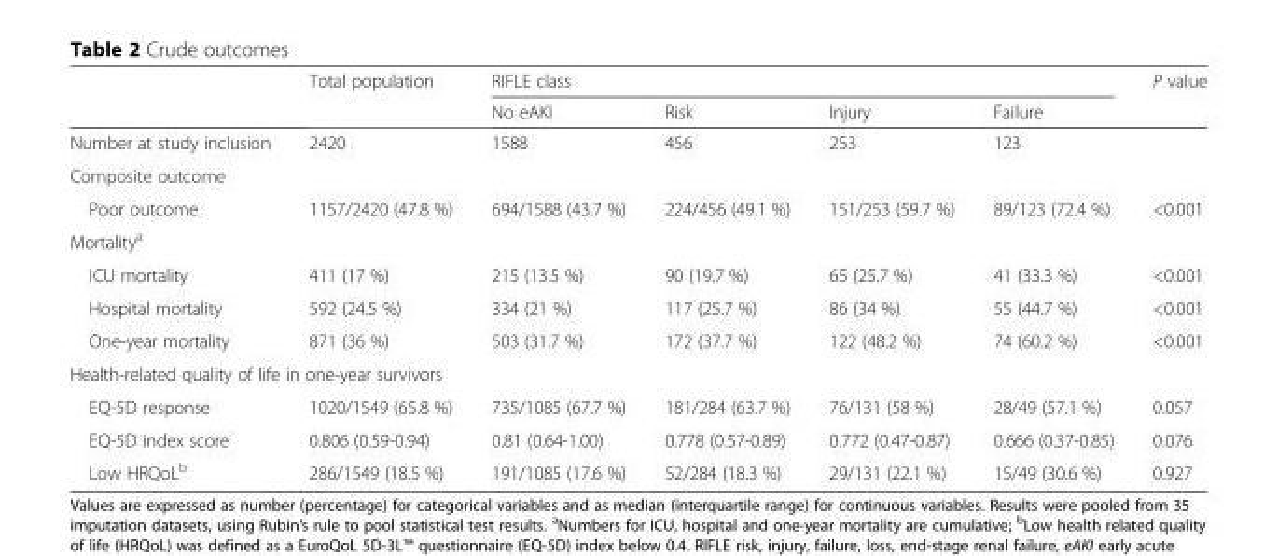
<table><thead><tr><td rowspan="2"></td><td rowspan="2">Total population</td><td colspan="4">RIFLE class</td><td rowspan="2">P value</td></tr><tr><td>No eAKI</td><td>Risk</td><td>Injury</td><td>Failure</td></tr></thead><tbody><tr><td>Number at study inclusion</td><td>2420</td><td>1588</td><td>456</td><td>253</td><td>123</td><td></td></tr><tr><td colspan="7">Composite outcome</td></tr><tr><td>Poor outcome</td><td>1157/2420 (47.8 %)</td><td>694/1588 (43.7 %)</td><td>224/456 (49.1 %)</td><td>151/253 (59.7 %)</td><td>89/123 (72.4 %)</td><td>&lt;0.001</td></tr><tr><td colspan="7">Mortality<sup>a</sup></td></tr><tr><td>ICU mortality</td><td>411 (17 %)</td><td>215 (13.5 %)</td><td>90 (19.7 %)</td><td>65 (25.7 %)</td><td>41 (33.3 %)</td><td>&lt;0.001</td></tr><tr><td>Hospital mortality</td><td>592 (24.5 %)</td><td>334 (21 %)</td><td>117 (25.7 %)</td><td>86 (34 %)</td><td>55 (44.7 %)</td><td>&lt;0.001</td></tr><tr><td>One-year mortality</td><td>871 (36 %)</td><td>503 (31.7 %)</td><td>172 (37.7 %)</td><td>122 (48.2 %)</td><td>74 (60.2 %)</td><td>&lt;0.001</td></tr><tr><td colspan="7">Health-related quality of life in one-year survivors</td></tr><tr><td>EQ-5D response</td><td>1020/1549 (65.8 %)</td><td>735/1085 (67.7 %)</td><td>181/284 (63.7 %)</td><td>76/131 (58 %)</td><td>28/49 (57.1 %)</td><td>0.057</td></tr><tr><td>EQ-5D index score</td><td>0.806 (0.59-0.94)</td><td>0.81 (0.64-1.00)</td><td>0.778 (0.57-0.89)</td><td>0.772 (0.47-0.87)</td><td>0.666 (0.37-0.85)</td><td>0.076</td></tr><tr><td>Low HRQoL<sup>b</sup></td><td>286/1549 (18.5 %)</td><td>191/1085 (17.6 %)</td><td>52/284 (18.3 %)</td><td>29/131 (22.1 %)</td><td>15/49 (30.6 %)</td><td>0.927</td></tr></tbody></table>